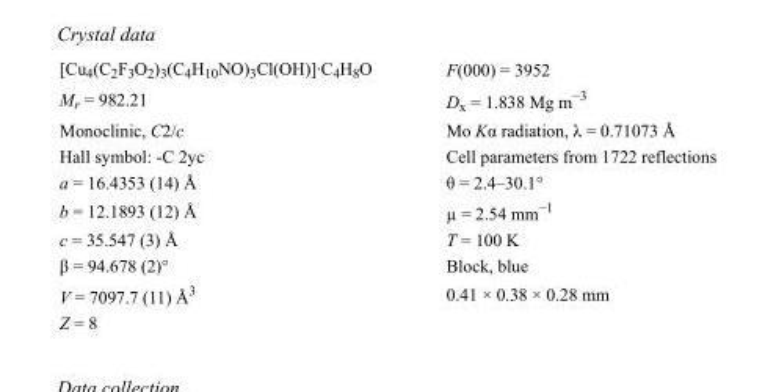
<table><tbody><tr><td>[Cu<sub>4</sub>(C<sub>2</sub>F<sub>3</sub>O<sub>2</sub>)<sub>3</sub>(C<sub>4</sub>H<sub>10</sub>NO)<sub>3</sub>Cl(OH)]·C<sub>4</sub>H<sub>8</sub>O</td><td>F(000) = 3952</td></tr><tr><td>M<sub>r</sub> = 982.21</td><td>D<sub>x</sub> = 1.838 Mg m<sup>−3</sup></td></tr><tr><td>Monoclinic, C2/c</td><td>Mo Kα radiation, λ = 0.71073 Å</td></tr><tr><td>Hall symbol: -C 2yc</td><td>Cell parameters from 1722 reflections</td></tr><tr><td>a = 16.4353 (14) Å</td><td>θ = 2.4–30.1°</td></tr><tr><td>b = 12.1893 (12) Å</td><td>µ = 2.54 mm<sup>−1</sup></td></tr><tr><td>c = 35.547 (3) Å</td><td>T = 100 K</td></tr><tr><td>β = 94.678 (2)°</td><td>Block, blue</td></tr><tr><td>V = 7097.7 (11) Å<sup>3</sup></td><td>0.41 × 0.38 × 0.28 mm</td></tr><tr><td>Z = 8</td><td></td></tr></tbody></table>